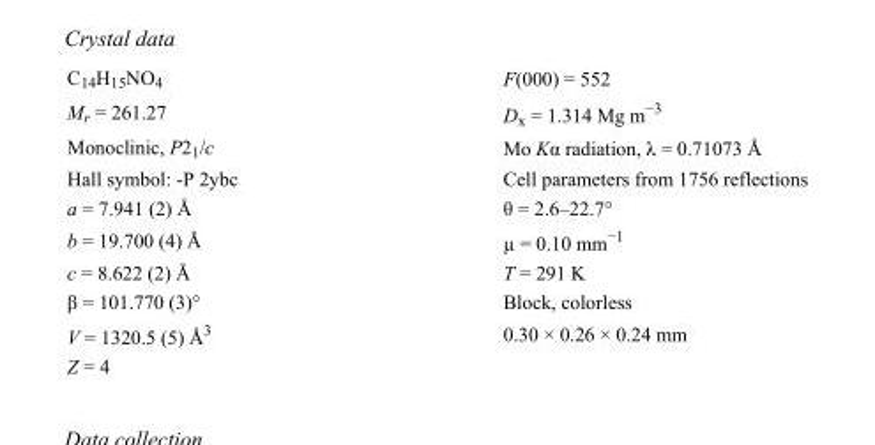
<table><tbody><tr><td>C<sub>14</sub>H<sub>15</sub>NO<sub>4</sub></td><td>F(000) = 552</td></tr><tr><td>M<sub>r</sub> = 261.27</td><td>D<sub>x</sub> = 1.314 Mg m<sup>−3</sup></td></tr><tr><td>Monoclinic, P2<sub>1</sub>/c</td><td>Mo Kα radiation, λ = 0.71073 Å</td></tr><tr><td>Hall symbol: -P 2ybc</td><td>Cell parameters from 1756 reflections</td></tr><tr><td>a = 7.941 (2) Å</td><td>θ = 2.6–22.7°</td></tr><tr><td>b = 19.700 (4) Å</td><td>µ = 0.10 mm<sup>−1</sup></td></tr><tr><td>c = 8.622 (2) Å</td><td>T = 291 K</td></tr><tr><td>β = 101.770 (3)°</td><td>Block, colorless</td></tr><tr><td>V = 1320.5 (5) Å<sup>3</sup></td><td>0.30 × 0.26 × 0.24 mm</td></tr><tr><td>Z = 4</td><td></td></tr></tbody></table>